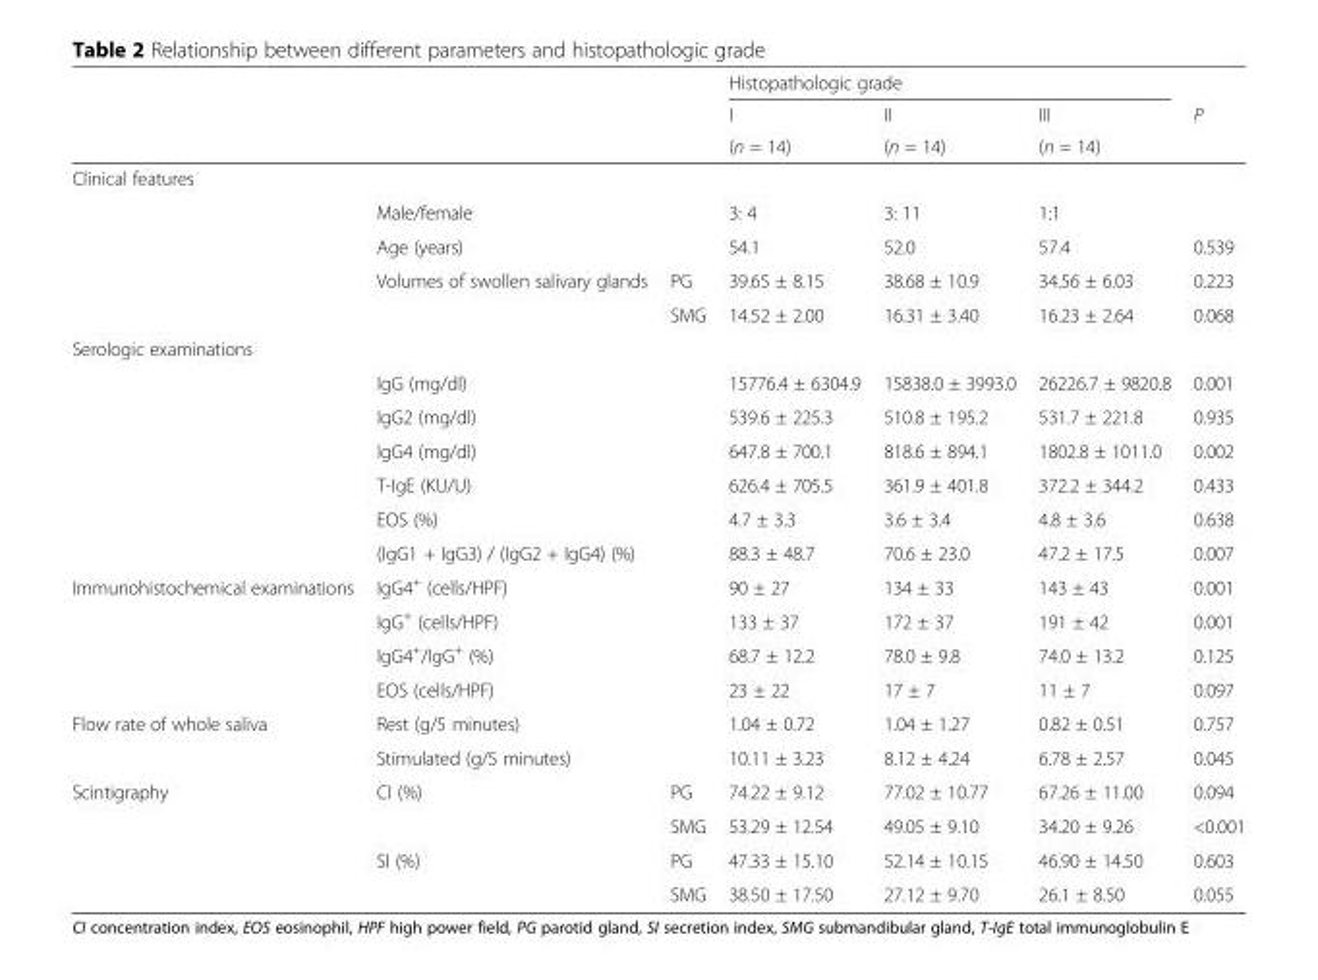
<table><thead><tr><td rowspan="3"></td><td rowspan="3"></td><td rowspan="3"></td><td colspan="3">Histopathologic grade</td><td rowspan="3">P</td></tr><tr><td rowspan="2">I (n = 14)</td><td rowspan="2">II (n = 14)</td><td rowspan="2">III (n = 14)</td></tr><tr></tr></thead><tbody><tr><td colspan="7">Clinical features</td></tr><tr><td></td><td>Male/female</td><td></td><td>3: 4</td><td>3: 11</td><td>1:1</td><td></td></tr><tr><td></td><td>Age (years)</td><td></td><td>54.1</td><td>52.0</td><td>57.4</td><td>0.539</td></tr><tr><td></td><td>Volumes of swollen salivary glands</td><td>PG</td><td>39.65 ± 8.15</td><td>38.68 ± 10.9</td><td>34.56 ± 6.03</td><td>0.223</td></tr><tr><td></td><td></td><td>SMG</td><td>14.52 ± 2.00</td><td>16.31 ± 3.40</td><td>16.23 ± 2.64</td><td>0.068</td></tr><tr><td colspan="7">Serologic examinations</td></tr><tr><td></td><td>IgG (mg/dl)</td><td></td><td>15776.4 ± 6304.9</td><td>15838.0 ± 3993.0</td><td>26226.7 ± 9820.8</td><td>0.001</td></tr><tr><td></td><td>IgG2 (mg/dl)</td><td></td><td>539.6 ± 225.3</td><td>510.8 ± 195.2</td><td>531.7 ± 221.8</td><td>0.935</td></tr><tr><td></td><td>IgG4 (mg/dl)</td><td></td><td>647.8 ± 700.1</td><td>818.6 ± 894.1</td><td>1802.8 ± 1011.0</td><td>0.002</td></tr><tr><td></td><td>T-IgE (KU/U)</td><td></td><td>626.4 ± 705.5</td><td>361.9 ± 401.8</td><td>372.2 ± 344.2</td><td>0.433</td></tr><tr><td></td><td>EOS (%)</td><td></td><td>4.7 ± 3.3</td><td>3.6 ± 3.4</td><td>4.8 ± 3.6</td><td>0.638</td></tr><tr><td></td><td>(IgG1 + IgG3) / (IgG2 + IgG4) (%)</td><td></td><td>88.3 ± 48.7</td><td>70.6 ± 23.0</td><td>47.2 ± 17.5</td><td>0.007</td></tr><tr><td rowspan="4">Immunohistochemical examinations</td><td>IgG4<sup>+</sup> (cells/HPF)</td><td></td><td>90 ± 27</td><td>134 ± 33</td><td>143 ± 43</td><td>0.001</td></tr><tr><td>IgG<sup>+</sup> (cells/HPF)</td><td></td><td>133 ± 37</td><td>172 ± 37</td><td>191 ± 42</td><td>0.001</td></tr><tr><td>IgG4<sup>+</sup>/IgG<sup>+</sup> (%)</td><td></td><td>68.7 ± 12.2</td><td>78.0 ± 9.8</td><td>74.0 ± 13.2</td><td>0.125</td></tr><tr><td>EOS (cells/HPF)</td><td></td><td>23 ± 22</td><td>17 ± 7</td><td>11 ± 7</td><td>0.097</td></tr><tr><td rowspan="2">Flow rate of whole saliva</td><td>Rest (g/5 minutes)</td><td></td><td>1.04 ± 0.72</td><td>1.04 ± 1.27</td><td>0.82 ± 0.51</td><td>0.757</td></tr><tr><td>Stimulated (g/5 minutes)</td><td></td><td>10.11 ± 3.23</td><td>8.12 ± 4.24</td><td>6.78 ± 2.57</td><td>0.045</td></tr><tr><td rowspan="4">Scintigraphy</td><td>CI (%)</td><td>PG</td><td>74.22 ± 9.12</td><td>77.02 ± 10.77</td><td>67.26 ± 11.00</td><td>0.094</td></tr><tr><td></td><td>SMG</td><td>53.29 ± 12.54</td><td>49.05 ± 9.10</td><td>34.20 ± 9.26</td><td>&lt;0.001</td></tr><tr><td>SI (%)</td><td>PG</td><td>47.33 ± 15.10</td><td>52.14 ± 10.15</td><td>46.90 ± 14.50</td><td>0.603</td></tr><tr><td></td><td>SMG</td><td>38.50 ± 17.50</td><td>27.12 ± 9.70</td><td>26.1 ± 8.50</td><td>0.055</td></tr></tbody></table>